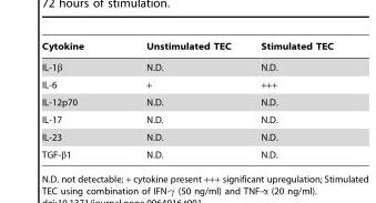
<table><thead><tr><td>Cytokine</td><td>Unstimulated TEC</td><td>Stimulated TEC</td></tr></thead><tbody><tr><td>IL-1β</td><td>N.D.</td><td>N.D.</td></tr><tr><td>IL-6</td><td>+</td><td>+++</td></tr><tr><td>IL-12p70</td><td>N.D.</td><td>N.D.</td></tr><tr><td>IL-17</td><td>N.D.</td><td>N.D.</td></tr><tr><td>IL-23</td><td>N.D.</td><td>N.D.</td></tr><tr><td>TGF-β1</td><td>N.D.</td><td>N.D.</td></tr></tbody></table>